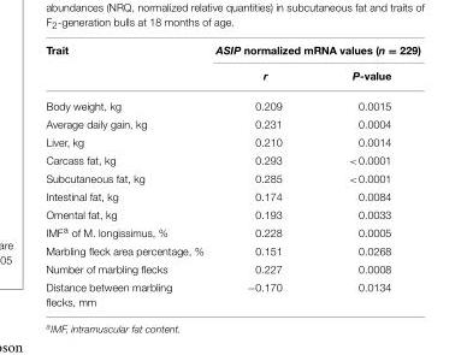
<table><thead><tr><td rowspan="2">Trait</td><td colspan="2">ASIP normalized mRNA values (n = 229)</td></tr><tr><td>r</td><td>P-value</td></tr></thead><tbody><tr><td>Body weight, kg</td><td>0.209</td><td>0.0015</td></tr><tr><td>Average daily gain, kg</td><td>0.231</td><td>0.0004</td></tr><tr><td>Liver, kg</td><td>0.210</td><td>0.0014</td></tr><tr><td>Carcass fat, kg</td><td>0.293</td><td>&lt;0.0001</td></tr><tr><td>Subcutaneous fat, kg</td><td>0.285</td><td>&lt;0.0001</td></tr><tr><td>Intestinal fat, kg</td><td>0.174</td><td>0.0084</td></tr><tr><td>Omental fat, kg</td><td>0.193</td><td>0.0033</td></tr><tr><td>IMF<sup>a</sup> of M. longissimus, %</td><td>0.228</td><td>0.0005</td></tr><tr><td>Marbling fleck area percentage, %</td><td>0.151</td><td>0.0268</td></tr><tr><td>Number of marbling flecks</td><td>0.227</td><td>0.0008</td></tr><tr><td>Distance between marbling flecks, mm</td><td>−0.170</td><td>0.0134</td></tr></tbody></table>